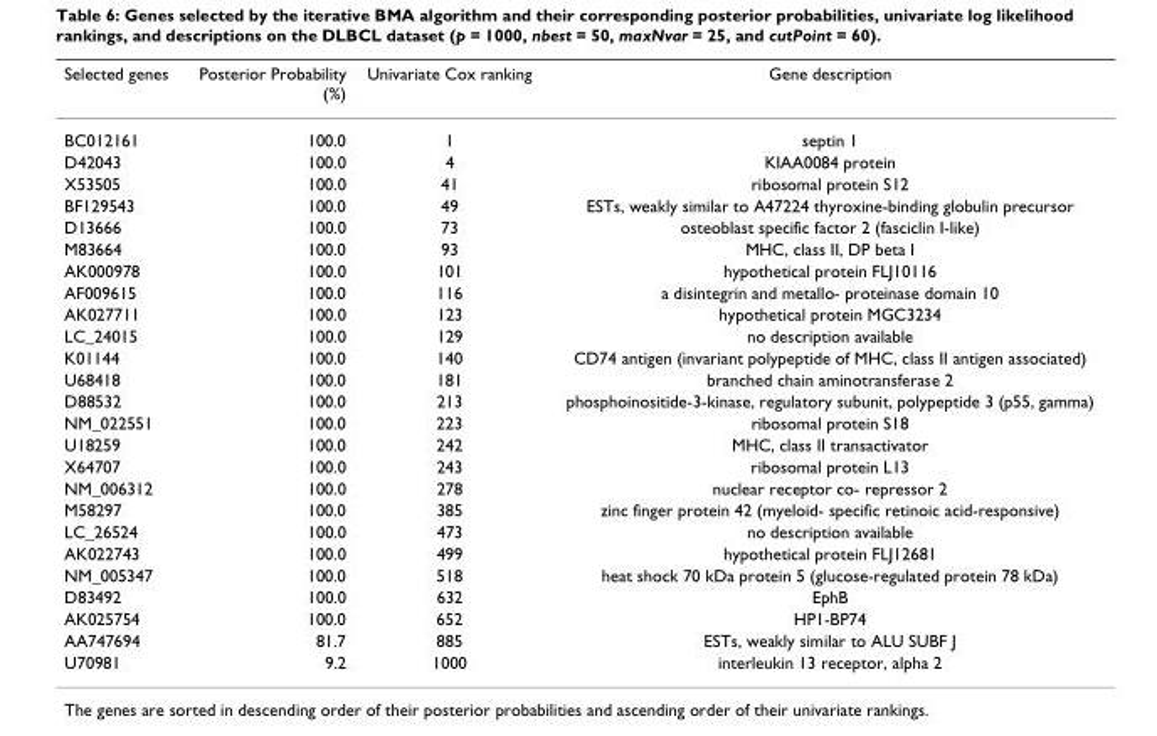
<table><thead><tr><td>Selected genes</td><td>Posterior Probability (%)</td><td>Univariate Cox ranking</td><td>Gene description</td></tr></thead><tbody><tr><td>BC012161</td><td>100.0</td><td>1</td><td>septin 1</td></tr><tr><td>D42043</td><td>100.0</td><td>4</td><td>KIAA0084 protein</td></tr><tr><td>X53505</td><td>100.0</td><td>41</td><td>ribosomal protein S12</td></tr><tr><td>BF129543</td><td>100.0</td><td>49</td><td>ESTs, weakly similar to A47224 thyroxine-binding globulin precursor</td></tr><tr><td>D13666</td><td>100.0</td><td>73</td><td>osteoblast specific factor 2 (fasciclin I-like)</td></tr><tr><td>M83664</td><td>100.0</td><td>93</td><td>MHC, class II, DP beta I</td></tr><tr><td>AK000978</td><td>100.0</td><td>101</td><td>hypothetical protein FLJ10116</td></tr><tr><td>AF009615</td><td>100.0</td><td>116</td><td>a disintegrin and metallo- proteinase domain 10</td></tr><tr><td>AK027711</td><td>100.0</td><td>123</td><td>hypothetical protein MGC3234</td></tr><tr><td>LC_24015</td><td>100.0</td><td>129</td><td>no description available</td></tr><tr><td>K01144</td><td>100.0</td><td>140</td><td>CD74 antigen (invariant polypeptide of MHC, class II antigen associated)</td></tr><tr><td>U68418</td><td>100.0</td><td>181</td><td>branched chain aminotransferase 2</td></tr><tr><td>D88532</td><td>100.0</td><td>213</td><td>phosphoinositide-3-kinase, regulatory subunit, polypeptide 3 (p55, gamma)</td></tr><tr><td>NM_022551</td><td>100.0</td><td>223</td><td>ribosomal protein S18</td></tr><tr><td>U18259</td><td>100.0</td><td>242</td><td>MHC, class II transactivator</td></tr><tr><td>X64707</td><td>100.0</td><td>243</td><td>ribosomal protein L13</td></tr><tr><td>NM_006312</td><td>100.0</td><td>278</td><td>nuclear receptor co- repressor 2</td></tr><tr><td>M58297</td><td>100.0</td><td>385</td><td>zinc finger protein 42 (myeloid- specific retinoic acid-responsive)</td></tr><tr><td>LC_26524</td><td>100.0</td><td>473</td><td>no description available</td></tr><tr><td>AK022743</td><td>100.0</td><td>499</td><td>hypothetical protein FLJ12681</td></tr><tr><td>NM_005347</td><td>100.0</td><td>518</td><td>heat shock 70 kDa protein 5 (glucose-regulated protein 78 kDa)</td></tr><tr><td>D83492</td><td>100.0</td><td>632</td><td>EphB</td></tr><tr><td>AK025754</td><td>100.0</td><td>652</td><td>HP1-BP74</td></tr><tr><td>AA747694</td><td>81.7</td><td>885</td><td>ESTs, weakly similar to ALU SUBF J</td></tr><tr><td>U70981</td><td>9.2</td><td>1000</td><td>interleukin 13 receptor, alpha 2</td></tr></tbody></table>